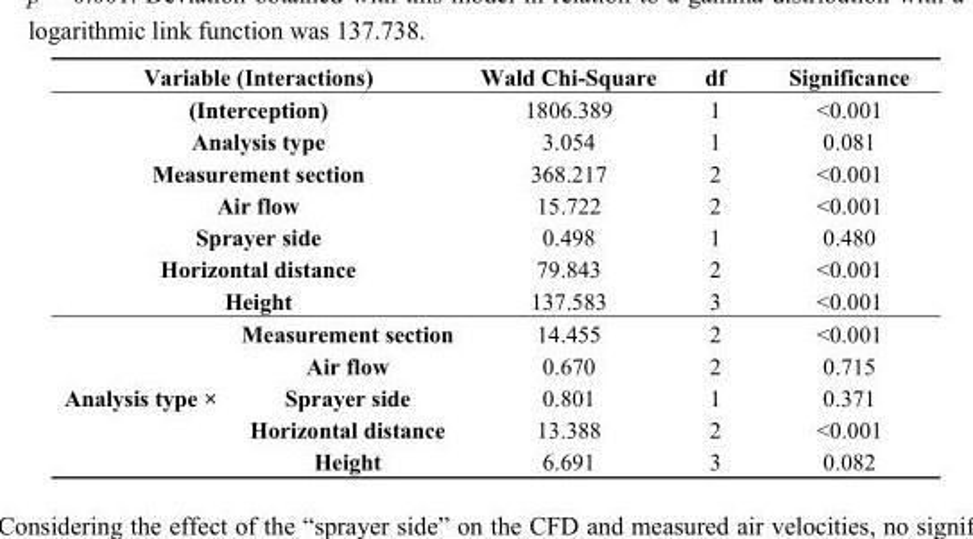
<table><thead><tr><td colspan="2">Variable (Interactions)</td><td>Wald Chi-Square</td><td>df</td><td>Significance</td></tr></thead><tbody><tr><td colspan="2">(Interception)</td><td>1806.389</td><td>1</td><td>&lt;0.001</td></tr><tr><td colspan="2">Analysis type</td><td>3.054</td><td>1</td><td>0.081</td></tr><tr><td colspan="2">Measurement section</td><td>368.217</td><td>2</td><td>&lt;0.001</td></tr><tr><td colspan="2">Air flow</td><td>15.722</td><td>2</td><td>&lt;0.001</td></tr><tr><td colspan="2">Sprayer side</td><td>0.498</td><td>1</td><td>0.480</td></tr><tr><td colspan="2">Horizontal distance</td><td>79.843</td><td>2</td><td>&lt;0.001</td></tr><tr><td colspan="2">Height</td><td>137.583</td><td>3</td><td>&lt;0.001</td></tr><tr><td rowspan="5">Analysis type ×</td><td>Measurement section</td><td>14.455</td><td>2</td><td>&lt;0.001</td></tr><tr><td>Air flow</td><td>0.670</td><td>2</td><td>0.715</td></tr><tr><td>Sprayer side</td><td>0.801</td><td>1</td><td>0.371</td></tr><tr><td>Horizontal distance</td><td>13.388</td><td>2</td><td>&lt;0.001</td></tr><tr><td>Height</td><td>6.691</td><td>3</td><td>0.082</td></tr></tbody></table>